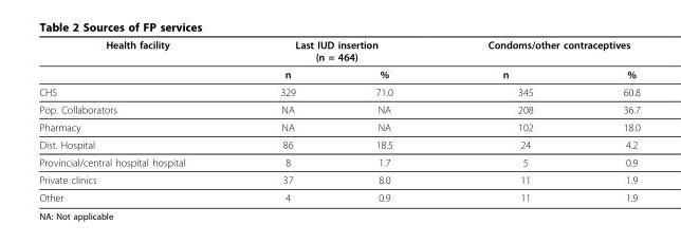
<table><thead><tr><td rowspan="2">Health facility</td><td colspan="2">Last IUD insertion (n = 464)</td><td colspan="2">Condoms/other contraceptives</td></tr><tr><td>n</td><td>%</td><td>n</td><td>%</td></tr></thead><tbody><tr><td>CHS</td><td>329</td><td>71.0</td><td>345</td><td>60.8</td></tr><tr><td>Pop. Collaborators</td><td>NA</td><td>NA</td><td>208</td><td>36.7</td></tr><tr><td>Pharmacy</td><td>NA</td><td>NA</td><td>102</td><td>18.0</td></tr><tr><td>Dist. Hospital</td><td>86</td><td>18.5</td><td>24</td><td>4.2</td></tr><tr><td>Provincial/central hospital hospital</td><td>8</td><td>1.7</td><td>5</td><td>0.9</td></tr><tr><td>Private clinics</td><td>37</td><td>8.0</td><td>11</td><td>1.9</td></tr><tr><td>Other</td><td>4</td><td>0.9</td><td>11</td><td>1.9</td></tr></tbody></table>